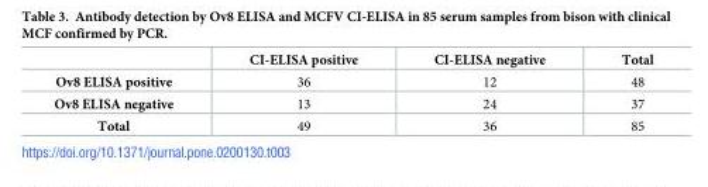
<table><thead><tr><td></td><td>CI-ELISA positive</td><td>CI-ELISA negative</td><td>Total</td></tr></thead><tbody><tr><td>Ov8 ELISA positive</td><td>36</td><td>12</td><td>48</td></tr><tr><td>Ov8 ELISA negative</td><td>13</td><td>24</td><td>37</td></tr><tr><td>Total</td><td>49</td><td>36</td><td>85</td></tr></tbody></table>